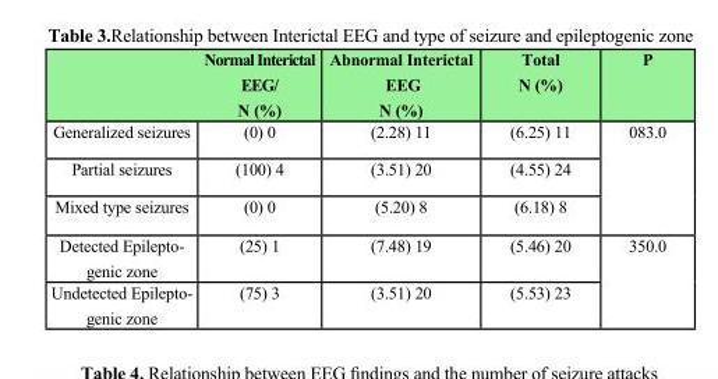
<table><thead><tr><td></td><td>Normal Interictal EEG/ N (%)</td><td>Abnormal Interictal EEG N (%)</td><td>Total N (%)</td><td>P</td></tr></thead><tbody><tr><td>Generalized seizures</td><td>(0) 0</td><td>(2.28) 11</td><td>(6.25) 11</td><td rowspan="3">083.0</td></tr><tr><td>Partial seizures</td><td>(100) 4</td><td>(3.51) 20</td><td>(4.55) 24</td></tr><tr><td>Mixed type seizures</td><td>(0) 0</td><td>(5.20) 8</td><td>(6.18) 8</td></tr><tr><td>Detected Epilepto- genic zone</td><td>(25) 1</td><td>(7.48) 19</td><td>(5.46) 20</td><td rowspan="2">350.0</td></tr><tr><td>Undetected Epilepto- genic zone</td><td>(75) 3</td><td>(3.51) 20</td><td>(5.53) 23</td></tr></tbody></table>